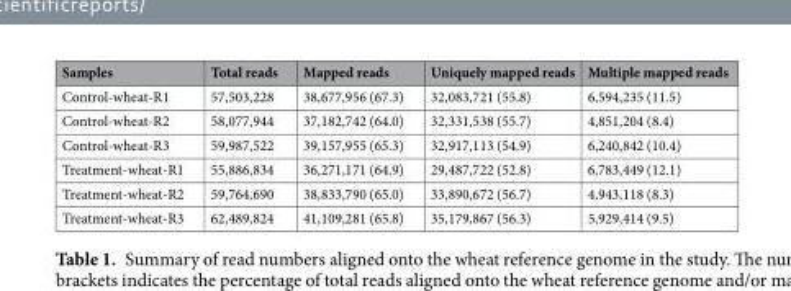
<table><thead><tr><td>Samples</td><td>Total reads</td><td>Mapped reads</td><td>Uniquely mapped reads</td><td>Multiple mapped reads</td></tr></thead><tbody><tr><td>Control-wheat-R1</td><td>57,503,228</td><td>38,677,956 (67.3)</td><td>32,083,721 (55.8)</td><td>6,594,235 (11.5)</td></tr><tr><td>Control-wheat-R2</td><td>58,077,944</td><td>37,182,742 (64.0)</td><td>32,331,538 (55.7)</td><td>4,851,204 (8.4)</td></tr><tr><td>Control-wheat-R3</td><td>59,987,522</td><td>39,157,955 (65.3)</td><td>32,917,113 (54.9)</td><td>6,240,842 (10.4)</td></tr><tr><td>Treatment-wheat-R1</td><td>55,886,834</td><td>36,271,171 (64.9)</td><td>29,487,722 (52.8)</td><td>6,783,449 (12.1)</td></tr><tr><td>Treatment-wheat-R2</td><td>59,764,690</td><td>38,833,790 (65.0)</td><td>33,890,672 (56.7)</td><td>4,943,118 (8.3)</td></tr><tr><td>Treatment-wheat-R3</td><td>62,489,824</td><td>41,109,281 (65.8)</td><td>35,179,867 (56.3)</td><td>5,929,414 (9.5)</td></tr></tbody></table>